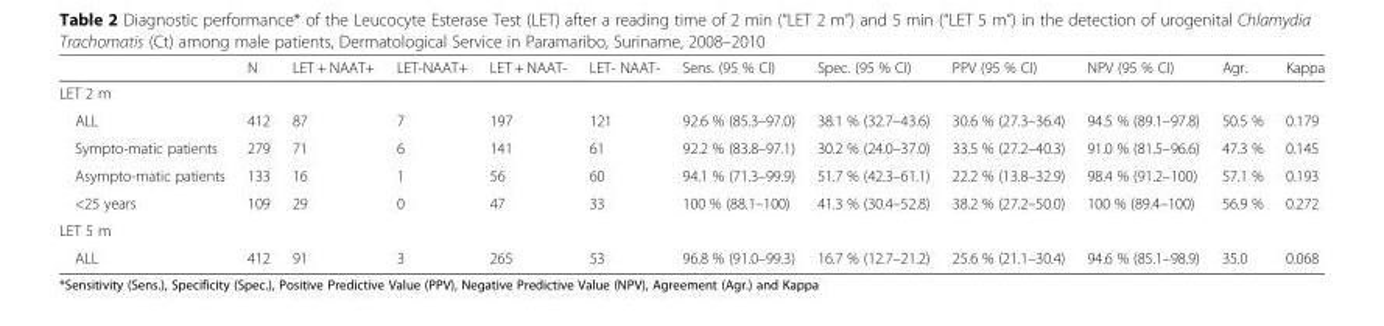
<table><thead><tr><td></td><td>N</td><td>LET + NAAT+</td><td>LET-NAAT+</td><td>LET + NAAT-</td><td>LET- NAAT-</td><td>Sens. (95 % CI)</td><td>Spec. (95 % CI)</td><td>PPV (95 % CI)</td><td>NPV (95 % CI)</td><td>Agr.</td><td>Kappa</td></tr></thead><tbody><tr><td colspan="12">LET 2 m</td></tr><tr><td>ALL</td><td>412</td><td>87</td><td>7</td><td>197</td><td>121</td><td>92.6 % (85.3–97.0)</td><td>38.1 % (32.7–43.6)</td><td>30.6 % (27.3–36.4)</td><td>94.5 % (89.1–97.8)</td><td>50.5 %</td><td>0.179</td></tr><tr><td>Sympto-matic patients</td><td>279</td><td>71</td><td>6</td><td>141</td><td>61</td><td>92.2 % (83.8–97.1)</td><td>30.2 % (24.0–37.0)</td><td>33.5 % (27.2–40.3)</td><td>91.0 % (81.5–96.6)</td><td>47.3 %</td><td>0.145</td></tr><tr><td>Asympto-matic patients</td><td>133</td><td>16</td><td>1</td><td>56</td><td>60</td><td>94.1 % (71.3–99.9)</td><td>51.7 % (42.3–61.1)</td><td>22.2 % (13.8–32.9)</td><td>98.4 % (91.2–100)</td><td>57.1 %</td><td>0.193</td></tr><tr><td>&lt;25 years</td><td>109</td><td>29</td><td>0</td><td>47</td><td>33</td><td>100 % (88.1–100)</td><td>41.3 % (30.4–52.8)</td><td>38.2 % (27.2–50.0)</td><td>100 % (89.4–100)</td><td>56.9 %</td><td>0.272</td></tr><tr><td colspan="12">LET 5 m</td></tr><tr><td>ALL</td><td>412</td><td>91</td><td>3</td><td>265</td><td>53</td><td>96.8 % (91.0–99.3)</td><td>16.7 % (12.7–21.2)</td><td>25.6 % (21.1–30.4)</td><td>94.6 % (85.1–98.9)</td><td>35.0</td><td>0.068</td></tr></tbody></table>